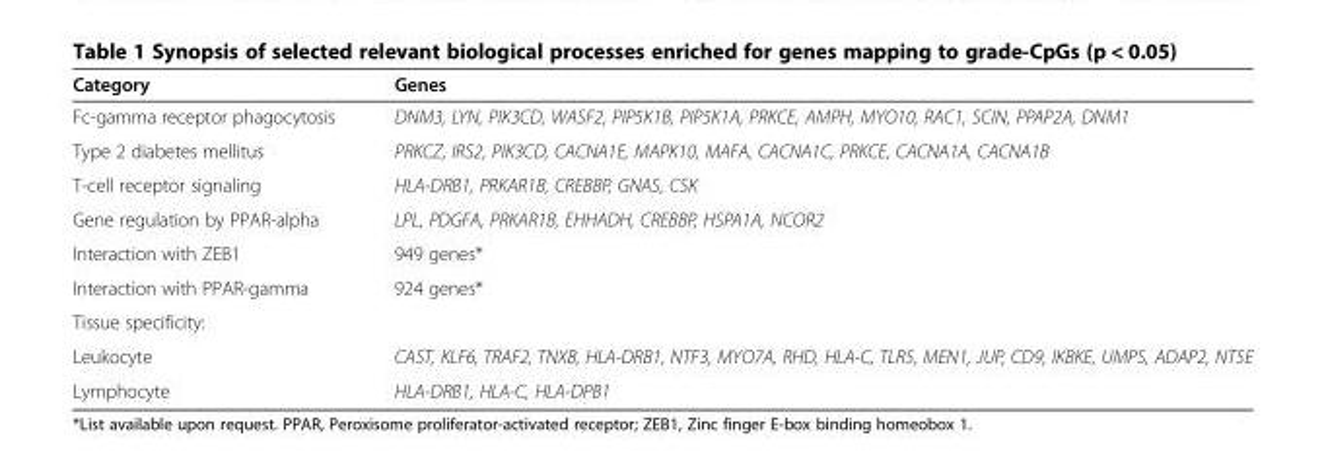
<table><thead><tr><td>Category</td><td>Genes</td></tr></thead><tbody><tr><td>Fc-gamma receptor phagocytosis</td><td>DNM3, LYN, PIK3CD, WASF2, PIP5K1B, PIP5K1A, PRKCE, AMPH, MYO10, RAC1, SCIN, PPAP2A, DNM1</td></tr><tr><td>Type 2 diabetes mellitus</td><td>PRKCZ, IRS2, PIK3CD, CACNA1E, MAPK10, MAFA, CACNA1C, PRKCE, CACNA1A, CACNA1B</td></tr><tr><td>T-cell receptor signaling</td><td>HLA-DRB1, PRKAR1B, CREBBP, GNAS, CSK</td></tr><tr><td>Gene regulation by PPAR-alpha</td><td>LPL, PDGFA, PRKAR1B, EHHADH, CREBBP, HSPA1A, NCOR2</td></tr><tr><td>Interaction with ZEB1</td><td>949 genes*</td></tr><tr><td>Interaction with PPAR-gamma</td><td>924 genes*</td></tr><tr><td colspan="2">Tissue specificity:</td></tr><tr><td>Leukocyte</td><td>CAST, KLF6, TRAF2, TNXB, HLA-DRB1, NTF3, MYO7A, RHD, HLA-C, TLR5, MEN1, JUP, CD9, IKBKE, UMPS, ADAP2, NT5E</td></tr><tr><td>Lymphocyte</td><td>HLA-DRB1, HLA-C, HLA-DPB1</td></tr></tbody></table>